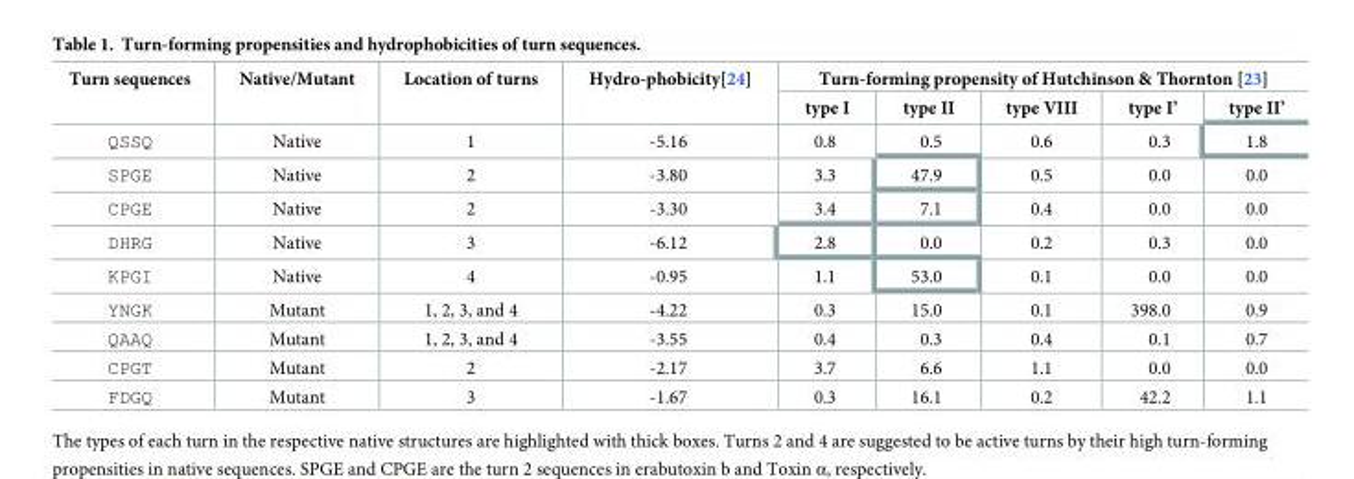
<table><thead><tr><td rowspan="2">Turn sequences</td><td rowspan="2">Native/Mutant</td><td rowspan="2">Location of turns</td><td rowspan="2">Hydro-phobicity[24]</td><td colspan="5">Turn-forming propensity of Hutchinson &amp; Thornton [23]</td></tr><tr><td>type I</td><td>type II</td><td>type VIII</td><td>type I’</td><td>type II’</td></tr></thead><tbody><tr><td>QSSQ</td><td>Native</td><td>1</td><td>-5.16</td><td>0.8</td><td>0.5</td><td>0.6</td><td>0.3</td><td>1.8</td></tr><tr><td>SPGE</td><td>Native</td><td>2</td><td>-3.80</td><td>3.3</td><td>47.9</td><td>0.5</td><td>0.0</td><td>0.0</td></tr><tr><td>CPGE</td><td>Native</td><td>2</td><td>-3.30</td><td>3.4</td><td>7.1</td><td>0.4</td><td>0.0</td><td>0.0</td></tr><tr><td>DHRG</td><td>Native</td><td>3</td><td>-6.12</td><td>2.8</td><td>0.0</td><td>0.2</td><td>0.3</td><td>0.0</td></tr><tr><td>KPGI</td><td>Native</td><td>4</td><td>-0.95</td><td>1.1</td><td>53.0</td><td>0.1</td><td>0.0</td><td>0.0</td></tr><tr><td>YNGK</td><td>Mutant</td><td>1, 2, 3, and 4</td><td>-4.22</td><td>0.3</td><td>15.0</td><td>0.1</td><td>398.0</td><td>0.9</td></tr><tr><td>QAAQ</td><td>Mutant</td><td>1, 2, 3, and 4</td><td>-3.55</td><td>0.4</td><td>0.3</td><td>0.4</td><td>0.1</td><td>0.7</td></tr><tr><td>CPGT</td><td>Mutant</td><td>2</td><td>-2.17</td><td>3.7</td><td>6.6</td><td>1.1</td><td>0.0</td><td>0.0</td></tr><tr><td>FDGQ</td><td>Mutant</td><td>3</td><td>-1.67</td><td>0.3</td><td>16.1</td><td>0.2</td><td>42.2</td><td>1.1</td></tr></tbody></table>